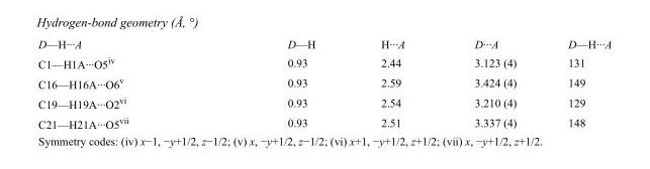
<table><tbody><tr><td>D—H···A</td><td>D—H</td><td>H···A</td><td>D···A</td><td>D—H···A</td></tr><tr><td>C1—H1A···O5<sup>iv</sup></td><td>0.93</td><td>2.44</td><td>3.123 (4)</td><td>131</td></tr><tr><td>C16—H16A···O6<sup>v</sup></td><td>0.93</td><td>2.59</td><td>3.424 (4)</td><td>149</td></tr><tr><td>C19—H19A···O2<sup>vi</sup></td><td>0.93</td><td>2.54</td><td>3.210 (4)</td><td>129</td></tr><tr><td>C21—H21A···O5<sup>vii</sup></td><td>0.93</td><td>2.51</td><td>3.337 (4)</td><td>148</td></tr></tbody></table>